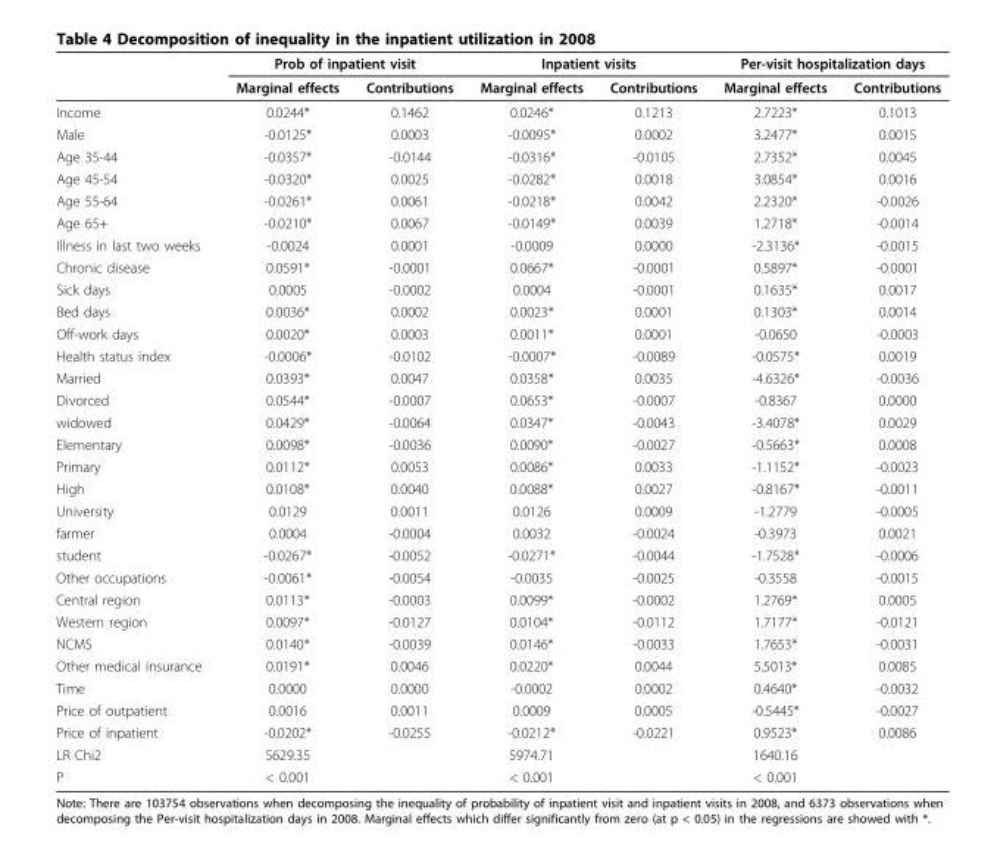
<table><thead><tr><td rowspan="2"></td><td colspan="2">Prob of inpatient visit</td><td colspan="2">Inpatient visits</td><td colspan="2">Per-visit hospitalization days</td></tr><tr><td>Marginal effects</td><td>Contributions</td><td>Marginal effects</td><td>Contributions</td><td>Marginal effects</td><td>Contributions</td></tr></thead><tbody><tr><td>Income</td><td>0.0244*</td><td>0.1462</td><td>0.0246*</td><td>0.1213</td><td>2.7223*</td><td>0.1013</td></tr><tr><td>Male</td><td>-0.0125*</td><td>0.0003</td><td>-0.0095*</td><td>0.0002</td><td>3.2477*</td><td>0.0015</td></tr><tr><td>Age 35-44</td><td>-0.0357*</td><td>-0.0144</td><td>-0.0316*</td><td>-0.0105</td><td>2.7352*</td><td>0.0045</td></tr><tr><td>Age 45-54</td><td>-0.0320*</td><td>0.0025</td><td>-0.0282*</td><td>0.0018</td><td>3.0854*</td><td>0.0016</td></tr><tr><td>Age 55-64</td><td>-0.0261*</td><td>0.0061</td><td>-0.0218*</td><td>0.0042</td><td>2.2320*</td><td>-0.0026</td></tr><tr><td>Age 65+</td><td>-0.0210*</td><td>0.0067</td><td>-0.0149*</td><td>0.0039</td><td>1.2718*</td><td>-0.0014</td></tr><tr><td>Illness in last two weeks</td><td>-0.0024</td><td>0.0001</td><td>-0.0009</td><td>0.0000</td><td>-2.3136*</td><td>-0.0015</td></tr><tr><td>Chronic disease</td><td>0.0591*</td><td>-0.0001</td><td>0.0667*</td><td>-0.0001</td><td>0.5897*</td><td>-0.0001</td></tr><tr><td>Sick days</td><td>0.0005</td><td>-0.0002</td><td>0.0004</td><td>-0.0001</td><td>0.1635*</td><td>0.0017</td></tr><tr><td>Bed days</td><td>0.0036*</td><td>0.0002</td><td>0.0023*</td><td>0.0001</td><td>0.1303*</td><td>0.0014</td></tr><tr><td>Off-work days</td><td>0.0020*</td><td>0.0003</td><td>0.0011*</td><td>0.0001</td><td>-0.0650</td><td>-0.0003</td></tr><tr><td>Health status index</td><td>-0.0006*</td><td>-0.0102</td><td>-0.0007*</td><td>-0.0089</td><td>-0.0575*</td><td>0.0019</td></tr><tr><td>Married</td><td>0.0393*</td><td>0.0047</td><td>0.0358*</td><td>0.0035</td><td>-4.6326*</td><td>-0.0036</td></tr><tr><td>Divorced</td><td>0.0544*</td><td>-0.0007</td><td>0.0653*</td><td>-0.0007</td><td>-0.8367</td><td>0.0000</td></tr><tr><td>widowed</td><td>0.0429*</td><td>-0.0064</td><td>0.0347*</td><td>-0.0043</td><td>-3.4078*</td><td>0.0029</td></tr><tr><td>Elementary</td><td>0.0098*</td><td>-0.0036</td><td>0.0090*</td><td>-0.0027</td><td>-0.5663*</td><td>0.0008</td></tr><tr><td>Primary</td><td>0.0112*</td><td>0.0053</td><td>0.0086*</td><td>0.0033</td><td>-1.1152*</td><td>-0.0023</td></tr><tr><td>High</td><td>0.0108*</td><td>0.0040</td><td>0.0088*</td><td>0.0027</td><td>-0.8167*</td><td>-0.0011</td></tr><tr><td>University</td><td>0.0129</td><td>0.0011</td><td>0.0126</td><td>0.0009</td><td>-1.2779</td><td>-0.0005</td></tr><tr><td>farmer</td><td>0.0004</td><td>-0.0004</td><td>0.0032</td><td>-0.0024</td><td>-0.3973</td><td>0.0021</td></tr><tr><td>student</td><td>-0.0267*</td><td>-0.0052</td><td>-0.0271*</td><td>-0.0044</td><td>-1.7528*</td><td>-0.0006</td></tr><tr><td>Other occupations</td><td>-0.0061*</td><td>-0.0054</td><td>-0.0035</td><td>-0.0025</td><td>-0.3558</td><td>-0.0015</td></tr><tr><td>Central region</td><td>0.0113*</td><td>-0.0003</td><td>0.0099*</td><td>-0.0002</td><td>1.2769*</td><td>0.0005</td></tr><tr><td>Western region</td><td>0.0097*</td><td>-0.0127</td><td>0.0104*</td><td>-0.0112</td><td>1.7177*</td><td>-0.0121</td></tr><tr><td>NCMS</td><td>0.0140*</td><td>-0.0039</td><td>0.0146*</td><td>-0.0033</td><td>1.7653*</td><td>-0.0031</td></tr><tr><td>Other medical insurance</td><td>0.0191*</td><td>0.0046</td><td>0.0220*</td><td>0.0044</td><td>5.5013*</td><td>0.0085</td></tr><tr><td>Time</td><td>0.0000</td><td>0.0000</td><td>-0.0002</td><td>0.0002</td><td>0.4640*</td><td>-0.0032</td></tr><tr><td>Price of outpatient</td><td>0.0016</td><td>0.0011</td><td>0.0009</td><td>0.0005</td><td>-0.5445*</td><td>-0.0027</td></tr><tr><td>Price of inpatient</td><td>-0.0202*</td><td>-0.0255</td><td>-0.0212*</td><td>-0.0221</td><td>0.9523*</td><td>0.0086</td></tr><tr><td>LR Chi2</td><td>5629.35</td><td></td><td>5974.71</td><td></td><td>1640.16</td><td></td></tr><tr><td>P</td><td>&lt; 0.001</td><td></td><td>&lt; 0.001</td><td></td><td>&lt; 0.001</td><td></td></tr></tbody></table>